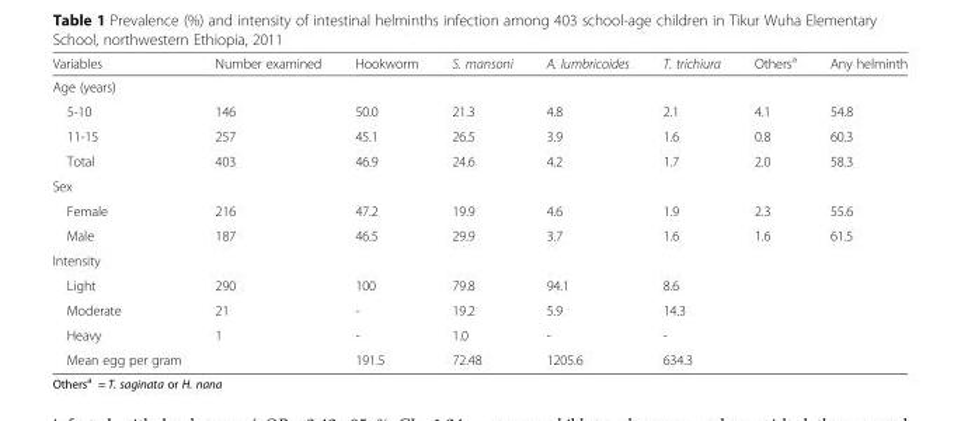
<table><thead><tr><td>Variables</td><td>Number examined</td><td>Hookworm</td><td>S. mansoni</td><td>A. lumbricoides</td><td>T. trichiura</td><td>Others<sup>a</sup></td><td>Any helminth</td></tr></thead><tbody><tr><td colspan="8">Age (years)</td></tr><tr><td>5-10</td><td>146</td><td>50.0</td><td>21.3</td><td>4.8</td><td>2.1</td><td>4.1</td><td>54.8</td></tr><tr><td>11-15</td><td>257</td><td>45.1</td><td>26.5</td><td>3.9</td><td>1.6</td><td>0.8</td><td>60.3</td></tr><tr><td>Total</td><td>403</td><td>46.9</td><td>24.6</td><td>4.2</td><td>1.7</td><td>2.0</td><td>58.3</td></tr><tr><td colspan="8">Sex</td></tr><tr><td>Female</td><td>216</td><td>47.2</td><td>19.9</td><td>4.6</td><td>1.9</td><td>2.3</td><td>55.6</td></tr><tr><td>Male</td><td>187</td><td>46.5</td><td>29.9</td><td>3.7</td><td>1.6</td><td>1.6</td><td>61.5</td></tr><tr><td colspan="8">Intensity</td></tr><tr><td>Light</td><td>290</td><td>100</td><td>79.8</td><td>94.1</td><td>8.6</td><td></td><td></td></tr><tr><td>Moderate</td><td>21</td><td>-</td><td>19.2</td><td>5.9</td><td>14.3</td><td></td><td></td></tr><tr><td>Heavy</td><td>1</td><td>-</td><td>1.0</td><td>-</td><td>-</td><td></td><td></td></tr><tr><td>Mean egg per gram</td><td></td><td>191.5</td><td>72.48</td><td>1205.6</td><td>634.3</td><td></td><td></td></tr></tbody></table>